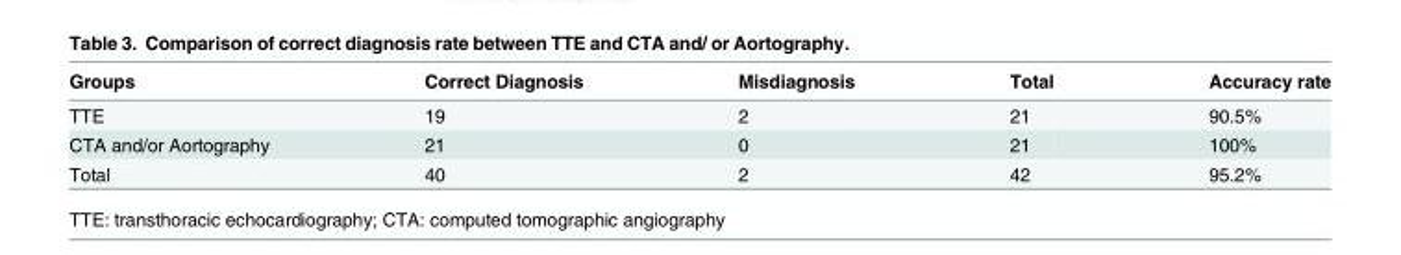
<table><thead><tr><td>Groups</td><td>Correct Diagnosis</td><td>Misdiagnosis</td><td>Total</td><td>Accuracy rate</td></tr></thead><tbody><tr><td>TTE</td><td>19</td><td>2</td><td>21</td><td>90.5%</td></tr><tr><td>CTA and/or Aortography</td><td>21</td><td>0</td><td>21</td><td>100%</td></tr><tr><td>Total</td><td>40</td><td>2</td><td>42</td><td>95.2%</td></tr></tbody></table>